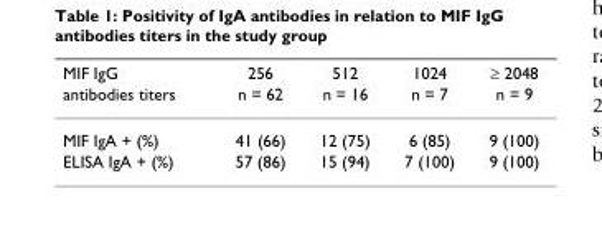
<table><thead><tr><td rowspan="2">MIF IgG antibodies titers</td><td rowspan="2">256 n = 62</td><td rowspan="2">512 n = 16</td><td rowspan="2">1024 n = 7</td><td rowspan="2">≥ 2048 n = 9</td></tr><tr></tr></thead><tbody><tr><td>MIF IgA + (%)</td><td>41 (66)</td><td>12 (75)</td><td>6 (85)</td><td>9 (100)</td></tr><tr><td>ELISA IgA + (%)</td><td>57 (86)</td><td>15 (94)</td><td>7 (100)</td><td>9 (100)</td></tr></tbody></table>